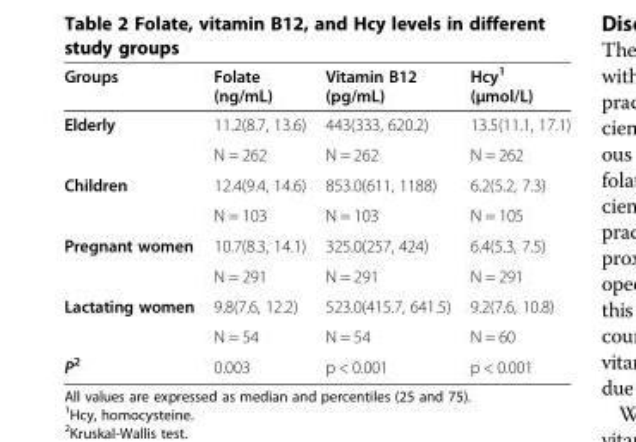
<table><thead><tr><td>Groups</td><td>Folate (ng/mL)</td><td>Vitamin B12 (pg/mL)</td><td>Hcy<sup>1</sup> (μmol/L)</td></tr></thead><tbody><tr><td rowspan="2">Elderly</td><td>11.2(8.7, 13.6)</td><td>443(333, 620.2)</td><td>13.5(11.1, 17.1)</td></tr><tr><td>N = 262</td><td>N = 262</td><td>N = 262</td></tr><tr><td rowspan="2">Children</td><td>12.4(9.4, 14.6)</td><td>853.0(611, 1188)</td><td>6.2(5.2, 7.3)</td></tr><tr><td>N = 103</td><td>N = 103</td><td>N = 105</td></tr><tr><td rowspan="2">Pregnant women</td><td>10.7(8.3, 14.1)</td><td>325.0(257, 424)</td><td>6.4(5.3, 7.5)</td></tr><tr><td>N = 291</td><td>N = 291</td><td>N = 291</td></tr><tr><td rowspan="2">Lactating women</td><td>9.8(7.6, 12.2)</td><td>523.0(415.7, 641.5)</td><td>9.2(7.6, 10.8)</td></tr><tr><td>N = 54</td><td>N = 54</td><td>N = 60</td></tr><tr><td>P<sup>2</sup></td><td>0.003</td><td>p &lt; 0.001</td><td>p &lt; 0.001</td></tr></tbody></table>